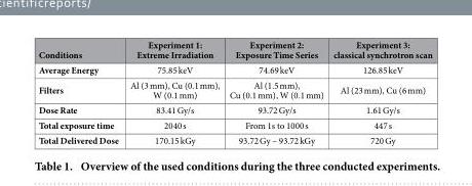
<table><thead><tr><td>Conditions</td><td>Experiment 1: Extreme Irradiation</td><td>Experiment 2: Exposure Time Series</td><td>Experiment 3: classical synchrotron scan</td></tr></thead><tbody><tr><td>Average Energy</td><td>75.85 keV</td><td>74.69 keV</td><td>126.85 keV</td></tr><tr><td>Filters</td><td>Al (3 mm), Cu (0.1 mm), W (0.1 mm)</td><td>Al (1.5 mm), Cu (0.1 mm), W (0.1 mm)</td><td>Al (23 mm), Cu (6 mm)</td></tr><tr><td>Dose Rate</td><td>83.41 Gy/s</td><td>93.72 Gy/s</td><td>1.61 Gy/s</td></tr><tr><td>Total exposure time</td><td>2040 s</td><td>From 1s to 1000 s</td><td>447 s</td></tr><tr><td>Total Delivered Dose</td><td>170.15 kGy</td><td>93.72 Gy – 93.72 kGy</td><td>720 Gy</td></tr></tbody></table>